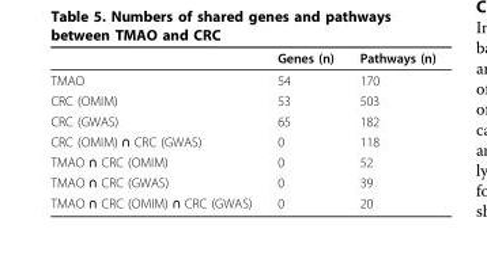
<table><thead><tr><td></td><td>Genes (n)</td><td>Pathways (n)</td></tr></thead><tbody><tr><td>TMAO</td><td>54</td><td>170</td></tr><tr><td>CRC (OMIM)</td><td>53</td><td>503</td></tr><tr><td>CRC (GWAS)</td><td>65</td><td>182</td></tr><tr><td>CRC (OMIM) ∩ CRC (GWAS)</td><td>0</td><td>118</td></tr><tr><td>TMAO ∩ CRC (OMIM)</td><td>0</td><td>52</td></tr><tr><td>TMAO ∩ CRC (GWAS)</td><td>0</td><td>39</td></tr><tr><td>TMAO ∩ CRC (OMIM) ∩ CRC (GWAS)</td><td>0</td><td>20</td></tr></tbody></table>